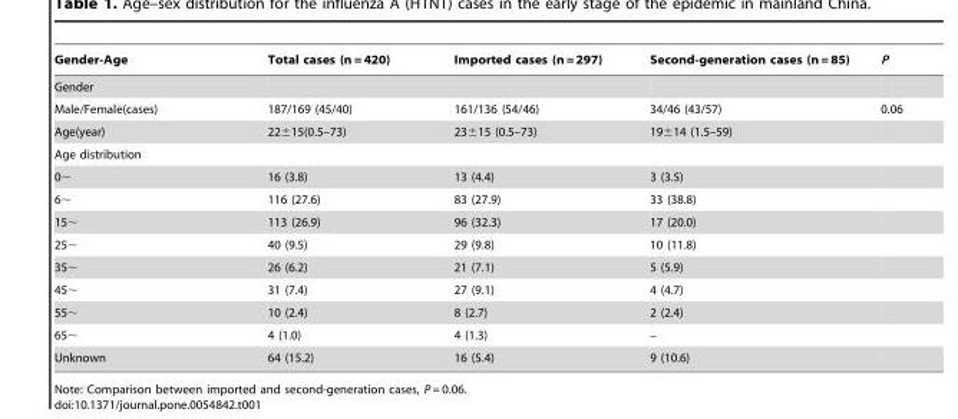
<table><thead><tr><td>Gender-Age</td><td>Total cases (n = 420)</td><td>Imported cases (n = 297)</td><td>Second-generation cases (n = 85)</td><td>P</td></tr></thead><tbody><tr><td colspan="5">Gender</td></tr><tr><td>Male/Female(cases)</td><td>187/169 (45/40)</td><td>161/136 (54/46)</td><td>34/46 (43/57)</td><td>0.06</td></tr><tr><td>Age(year)</td><td>22±15(0.5–73)</td><td>23±15 (0.5–73)</td><td>19±14 (1.5–59)</td><td></td></tr><tr><td colspan="5">Age distribution</td></tr><tr><td>0∼</td><td>16 (3.8)</td><td>13 (4.4)</td><td>3 (3.5)</td><td></td></tr><tr><td>6∼</td><td>116 (27.6)</td><td>83 (27.9)</td><td>33 (38.8)</td><td></td></tr><tr><td>15∼</td><td>113 (26.9)</td><td>96 (32.3)</td><td>17 (20.0)</td><td></td></tr><tr><td>25∼</td><td>40 (9.5)</td><td>29 (9.8)</td><td>10 (11.8)</td><td></td></tr><tr><td>35∼</td><td>26 (6.2)</td><td>21 (7.1)</td><td>5 (5.9)</td><td></td></tr><tr><td>45∼</td><td>31 (7.4)</td><td>27 (9.1)</td><td>4 (4.7)</td><td></td></tr><tr><td>55∼</td><td>10 (2.4)</td><td>8 (2.7)</td><td>2 (2.4)</td><td></td></tr><tr><td>65∼</td><td>4 (1.0)</td><td>4 (1.3)</td><td>–</td><td></td></tr><tr><td>Unknown</td><td>64 (15.2)</td><td>16 (5.4)</td><td>9 (10.6)</td><td></td></tr></tbody></table>